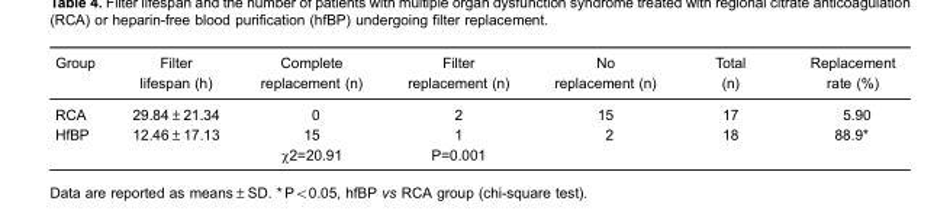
<table><thead><tr><td>Group</td><td>Filter lifespan (h)</td><td>Complete replacement (n)</td><td>Filter replacement (n)</td><td>No replacement (n)</td><td>Total (n)</td><td>Replacement rate (%)</td></tr></thead><tbody><tr><td>RCA</td><td>29.84±21.34</td><td>0</td><td>2</td><td>15</td><td>17</td><td>5.90</td></tr><tr><td rowspan="2">HfBP</td><td>12.46±17.13</td><td>15</td><td>1</td><td>2</td><td>18</td><td>88.9*</td></tr><tr><td></td><td>χ2=20.91</td><td>P=0.001</td><td></td><td></td><td></td></tr></tbody></table>